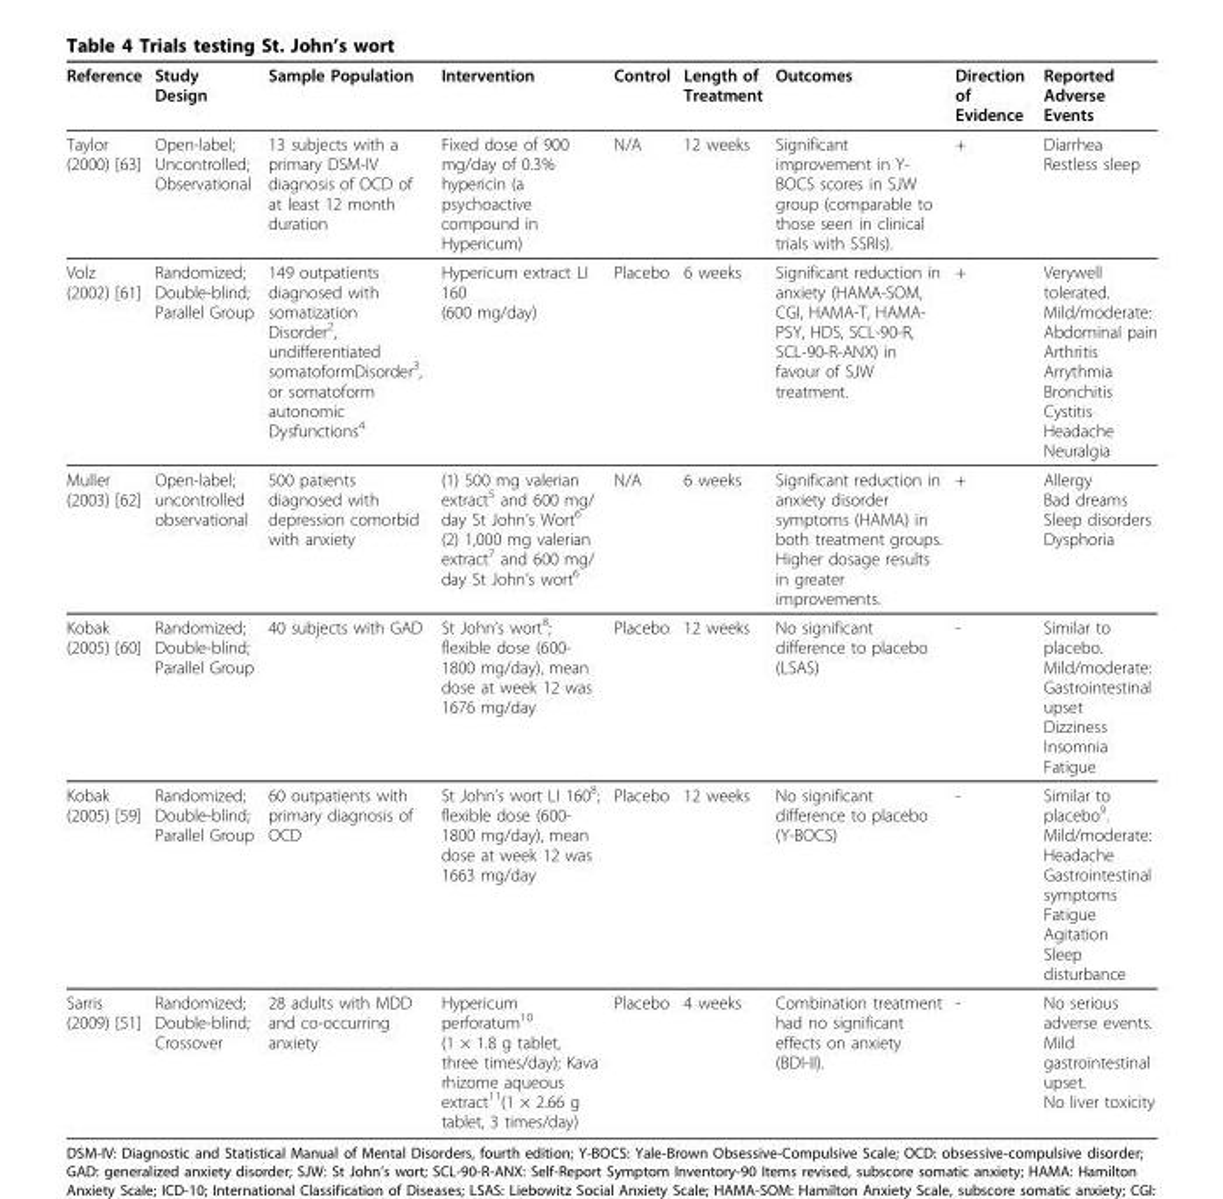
<table><thead><tr><td>Reference</td><td>Study Design</td><td>Sample Population</td><td>Intervention</td><td>Control</td><td>Length of Treatment</td><td>Outcomes</td><td>Direction of Evidence</td><td>Reported Adverse Events</td></tr></thead><tbody><tr><td>Taylor (2000) [63]</td><td>Open-label; Uncontrolled; Observational</td><td>13 subjects with a primary DSM-IV diagnosis of OCD of at least 12 month duration</td><td>Fixed dose of 900 mg/day of 0.3% hypericin (a psychoactive compound in Hypericum)</td><td>N/A</td><td>12 weeks</td><td>Significant improvement in Y- BOCS scores in SJW group (comparable to those seen in clinical trials with SSRIs).</td><td>+</td><td>Diarrhea Restless sleep</td></tr><tr><td>Volz (2002) [61]</td><td>Randomized; Double-blind; Parallel Group</td><td>149 outpatients diagnosed with somatization Disorder<sup>2</sup>, undifferentiated somatoformDisorder<sup>3</sup>, or somatoform autonomic Dysfunctions<sup>4</sup></td><td>Hypericum extract LI 160 (600 mg/day)</td><td>Placebo</td><td>6 weeks</td><td>Significant reduction in anxiety (HAMA-SOM, CGI, HAMA-T, HAMA- PSY, HDS, SCL-90-R, SCL-90-R-ANX) in favour of SJW treatment.</td><td>+</td><td>Verywell tolerated. Mild/moderate: Abdominal pain Arthritis Arrythmia Bronchitis Cystitis Headache Neuralgia</td></tr><tr><td>Muller (2003) [62]</td><td>Open-label; uncontrolled observational</td><td>500 patients diagnosed with depression comorbid with anxiety</td><td>(1) 500 mg valerian extract<sup>5</sup> and 600 mg/ day St John’s Wort<sup>6</sup> (2) 1,000 mg valerian extract<sup>7</sup> and 600 mg/ day St John’s wort<sup>6</sup></td><td>N/A</td><td>6 weeks</td><td>Significant reduction in anxiety disorder symptoms (HAMA) in both treatment groups. Higher dosage results in greater improvements.</td><td>+</td><td>Allergy Bad dreams Sleep disorders Dysphoria</td></tr><tr><td>Kobak (2005) [60]</td><td>Randomized; Double-blind; Parallel Group</td><td>40 subjects with GAD</td><td>St John’s wort<sup>8</sup>; flexible dose (600- 1800 mg/day), mean dose at week 12 was 1676 mg/day</td><td>Placebo</td><td>12 weeks</td><td>No significant difference to placebo (LSAS)</td><td>-</td><td>Similar to placebo. Mild/moderate: Gastrointestinal upset Dizziness Insomnia Fatigue</td></tr><tr><td>Kobak (2005) [59]</td><td>Randomized; Double-blind; Parallel Group</td><td>60 outpatients with primary diagnosis of OCD</td><td>St John’s wort LI 160<sup>8</sup>; flexible dose (600- 1800 mg/day), mean dose at week 12 was 1663 mg/day</td><td>Placebo</td><td>12 weeks</td><td>No significant difference to placebo (Y-BOCS)</td><td>-</td><td>Similar to placebo<sup>9</sup>. Mild/moderate: Headache Gastrointestinal symptoms Fatigue Agitation Sleep disturbance</td></tr><tr><td>Sarris (2009) [51]</td><td>Randomized; Double-blind; Crossover</td><td>28 adults with MDD and co-occurring anxiety</td><td>Hypericum perforatum10 (1 × 1.8 g tablet, three times/day); Kava rhizome aqueous extract11(1 × 2.66 g tablet, 3 times/day)</td><td>Placebo</td><td>4 weeks</td><td>Combination treatment had no significant effects on anxiety (BDI-II).</td><td>-</td><td>No serious adverse events. Mild gastrointestinal upset. No liver toxicity</td></tr></tbody></table>